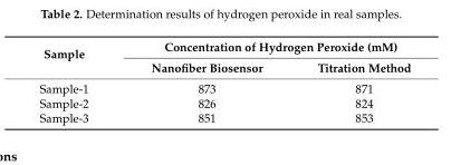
<table><thead><tr><td rowspan="2">Sample</td><td colspan="2">Concentration of Hydrogen Peroxide (mM)</td></tr><tr><td>Nanofiber Biosensor</td><td>Titration Method</td></tr></thead><tbody><tr><td>Sample-1</td><td>873</td><td>871</td></tr><tr><td>Sample-2</td><td>826</td><td>824</td></tr><tr><td>Sample-3</td><td>851</td><td>853</td></tr></tbody></table>